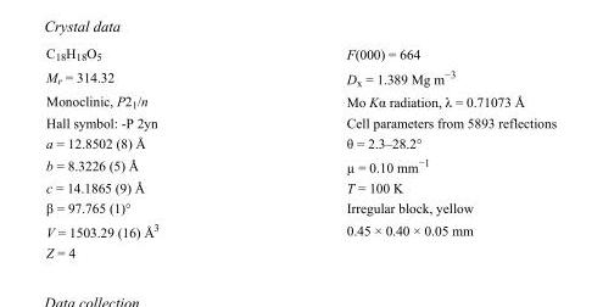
<table><tbody><tr><td>C<sub>18</sub>H<sub>18</sub>O<sub>5</sub></td><td>F(000) = 664</td></tr><tr><td>M<sub>r</sub> = 314.32</td><td>D<sub>x</sub> = 1.389 Mg m<sup>−3</sup></td></tr><tr><td>Monoclinic, P2<sub>1</sub>/n</td><td>Mo Kα radiation, λ = 0.71073 Å</td></tr><tr><td>Hall symbol: -P 2yn</td><td>Cell parameters from 5893 reflections</td></tr><tr><td>a = 12.8502 (8) Å</td><td>θ = 2.3–28.2°</td></tr><tr><td>b = 8.3226 (5) Å</td><td>µ = 0.10 mm<sup>−1</sup></td></tr><tr><td>c = 14.1865 (9) Å</td><td>T = 100 K</td></tr><tr><td>β = 97.765 (1)°</td><td>Irregular block, yellow</td></tr><tr><td>V = 1503.29 (16) Å<sup>3</sup></td><td>0.45 × 0.40 × 0.05 mm</td></tr><tr><td>Z = 4</td><td></td></tr></tbody></table>